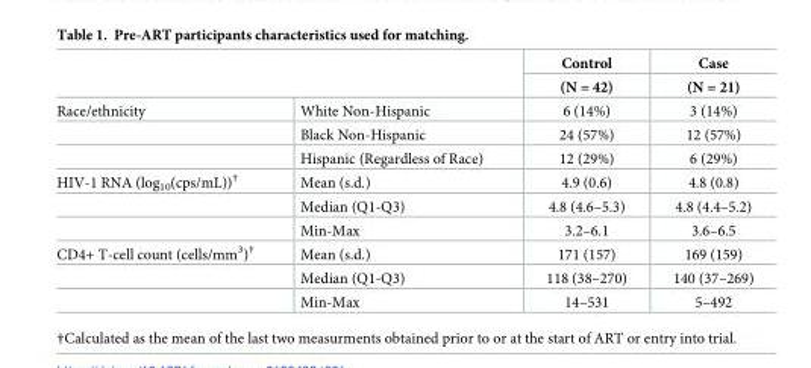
<table><thead><tr><td rowspan="2"></td><td rowspan="2"></td><td rowspan="2">Control (N = 42)</td><td rowspan="2">Case (N = 21)</td></tr><tr></tr></thead><tbody><tr><td rowspan="3">Race/ethnicity</td><td>White Non-Hispanic</td><td>6 (14%)</td><td>3 (14%)</td></tr><tr><td>Black Non-Hispanic</td><td>24 (57%)</td><td>12 (57%)</td></tr><tr><td>Hispanic (Regardless of Race)</td><td>12 (29%)</td><td>6 (29%)</td></tr><tr><td rowspan="3">HIV-1 RNA (log<sub>10</sub>(cps/mL))<sup>†</sup></td><td>Mean (s.d.)</td><td>4.9 (0.6)</td><td>4.8 (0.8)</td></tr><tr><td>Median (Q1-Q3)</td><td>4.8 (4.6–5.3)</td><td>4.8 (4.4–5.2)</td></tr><tr><td>Min-Max</td><td>3.2–6.1</td><td>3.6–6.5</td></tr><tr><td rowspan="3">CD4+ T-cell count (cells/mm<sup>3</sup>)<sup>†</sup></td><td>Mean (s.d.)</td><td>171 (157)</td><td>169 (159)</td></tr><tr><td>Median (Q1-Q3)</td><td>118 (38–270)</td><td>140 (37–269)</td></tr><tr><td>Min-Max</td><td>14–531</td><td>5–492</td></tr></tbody></table>